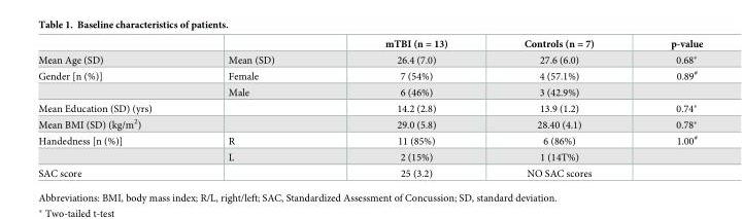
<table><thead><tr><td></td><td></td><td>mTBI (n = 13)</td><td>Controls (n = 7)</td><td>p-value</td></tr></thead><tbody><tr><td>Mean Age (SD)</td><td>Mean (SD)</td><td>26.4 (7.0)</td><td>27.6 (6.0)</td><td>0.68*</td></tr><tr><td rowspan="2">Gender [n (%)]</td><td>Female</td><td>7 (54%)</td><td>4 (57.1%)</td><td>0.89<sup>#</sup></td></tr><tr><td>Male</td><td>6 (46%)</td><td>3 (42.9%)</td><td></td></tr><tr><td>Mean Education (SD) (yrs)</td><td></td><td>14.2 (2.8)</td><td>13.9 (1.2)</td><td>0.74*</td></tr><tr><td>Mean BMI (SD) (kg/m<sup>2</sup>)</td><td></td><td>29.0 (5.8)</td><td>28.40 (4.1)</td><td>0.78*</td></tr><tr><td rowspan="2">Handedness [n (%)]</td><td>R</td><td>11 (85%)</td><td>6 (86%)</td><td>1.00<sup>#</sup></td></tr><tr><td>L</td><td>2 (15%)</td><td>1 (14T%)</td><td></td></tr><tr><td>SAC score</td><td></td><td>25 (3.2)</td><td>NO SAC scores</td><td></td></tr></tbody></table>